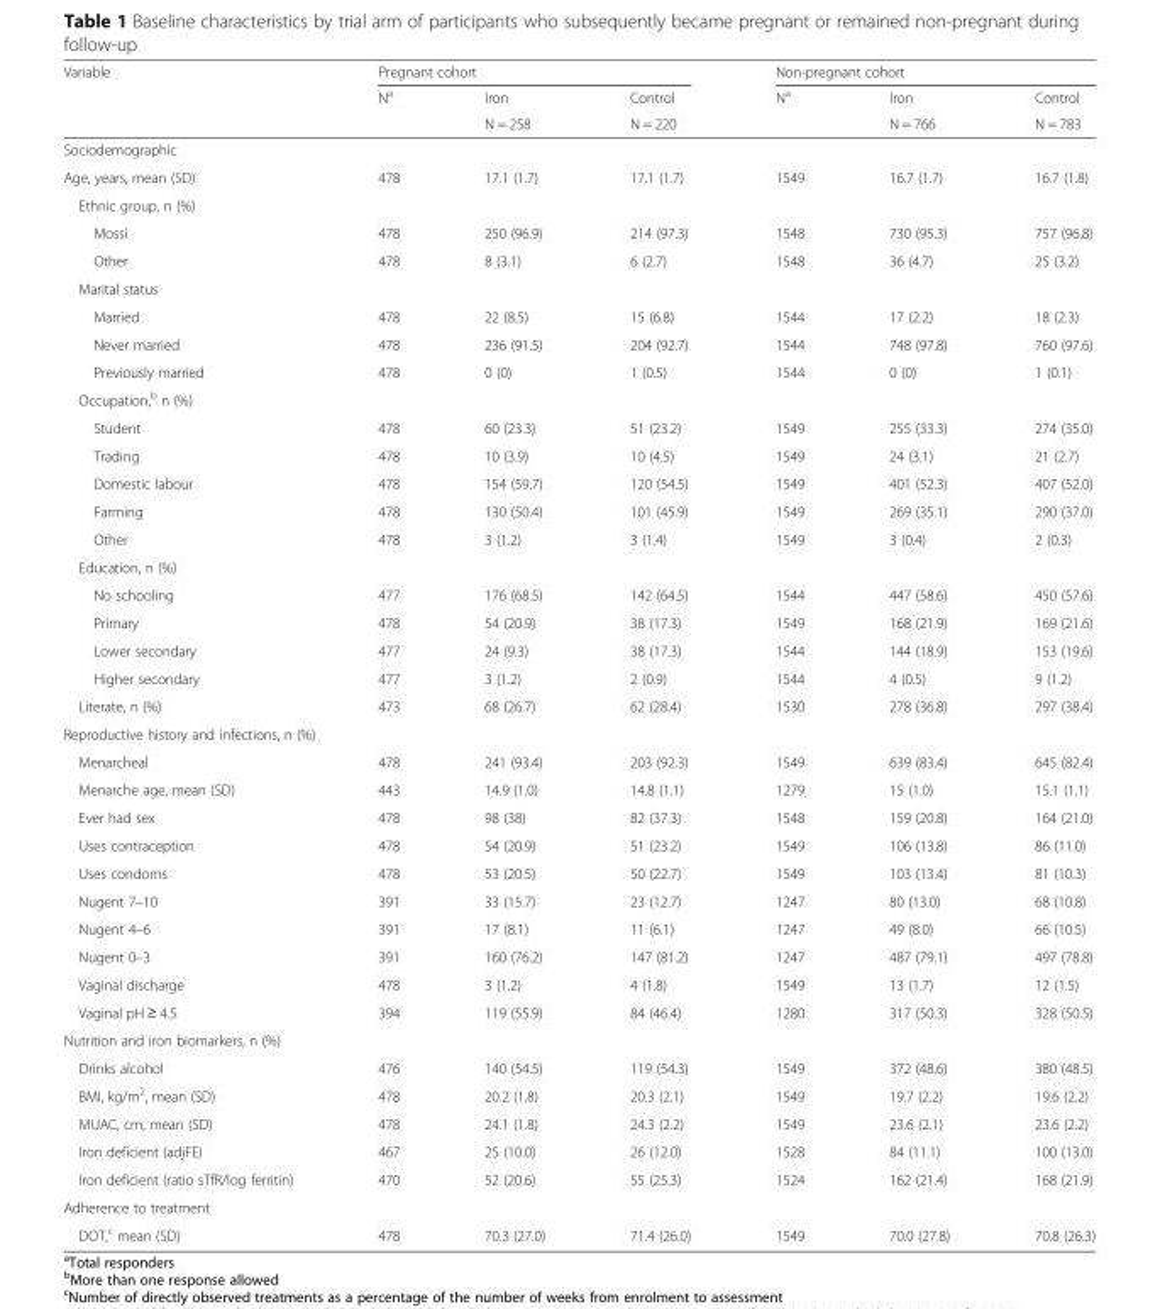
<table><thead><tr><td rowspan="3">Variable</td><td colspan="3">Pregnant cohort</td><td colspan="3">Non-pregnant cohort</td></tr><tr><td rowspan="2">N<sup>a</sup></td><td rowspan="2">Iron N = 258</td><td rowspan="2">Control N = 220</td><td rowspan="2">N<sup>a</sup></td><td rowspan="2">Iron N = 766</td><td rowspan="2">Control N = 783</td></tr><tr></tr></thead><tbody><tr><td colspan="7">Sociodemographic</td></tr><tr><td>Age, years, mean (SD)</td><td>478</td><td>17.1 (1.7)</td><td>17.1 (1.7)</td><td>1549</td><td>16.7 (1.7)</td><td>16.7 (1.8)</td></tr><tr><td colspan="7">Ethnic group, n (%)</td></tr><tr><td>Mossi</td><td>478</td><td>250 (96.9)</td><td>214 (97.3)</td><td>1548</td><td>730 (95.3)</td><td>757 (96.8)</td></tr><tr><td>Other</td><td>478</td><td>8 (3.1)</td><td>6 (2.7)</td><td>1548</td><td>36 (4.7)</td><td>25 (3.2)</td></tr><tr><td colspan="7">Marital status</td></tr><tr><td>Married</td><td>478</td><td>22 (8.5)</td><td>15 (6.8)</td><td>1544</td><td>17 (2.2)</td><td>18 (2.3)</td></tr><tr><td>Never married</td><td>478</td><td>236 (91.5)</td><td>204 (92.7)</td><td>1544</td><td>748 (97.8)</td><td>760 (97.6)</td></tr><tr><td>Previously married</td><td>478</td><td>0 (0)</td><td>1 (0.5)</td><td>1544</td><td>0 (0)</td><td>1 (0.1)</td></tr><tr><td colspan="7">Occupation,<sup>b</sup> n (%)</td></tr><tr><td>Student</td><td>478</td><td>60 (23.3)</td><td>51 (23.2)</td><td>1549</td><td>255 (33.3)</td><td>274 (35.0)</td></tr><tr><td>Trading</td><td>478</td><td>10 (3.9)</td><td>10 (4.5)</td><td>1549</td><td>24 (3.1)</td><td>21 (2.7)</td></tr><tr><td>Domestic labour</td><td>478</td><td>154 (59.7)</td><td>120 (54.5)</td><td>1549</td><td>401 (52.3)</td><td>407 (52.0)</td></tr><tr><td>Farming</td><td>478</td><td>130 (50.4)</td><td>101 (45.9)</td><td>1549</td><td>269 (35.1)</td><td>290 (37.0)</td></tr><tr><td>Other</td><td>478</td><td>3 (1.2)</td><td>3 (1.4)</td><td>1549</td><td>3 (0.4)</td><td>2 (0.3)</td></tr><tr><td colspan="7">Education, n (%)</td></tr><tr><td>No schooling</td><td>477</td><td>176 (68.5)</td><td>142 (64.5)</td><td>1544</td><td>447 (58.6)</td><td>450 (57.6)</td></tr><tr><td>Primary</td><td>478</td><td>54 (20.9)</td><td>38 (17.3)</td><td>1549</td><td>168 (21.9)</td><td>169 (21.6)</td></tr><tr><td>Lower secondary</td><td>477</td><td>24 (9.3)</td><td>38 (17.3)</td><td>1544</td><td>144 (18.9)</td><td>153 (19.6)</td></tr><tr><td>Higher secondary</td><td>477</td><td>3 (1.2)</td><td>2 (0.9)</td><td>1544</td><td>4 (0.5)</td><td>9 (1.2)</td></tr><tr><td>Literate, n (%)</td><td>473</td><td>68 (26.7)</td><td>62 (28.4)</td><td>1530</td><td>278 (36.8)</td><td>297 (38.4)</td></tr><tr><td colspan="7">Reproductive history and infections, n (%)</td></tr><tr><td>Menarcheal</td><td>478</td><td>241 (93.4)</td><td>203 (92.3)</td><td>1549</td><td>639 (83.4)</td><td>645 (82.4)</td></tr><tr><td>Menarche age, mean (SD)</td><td>443</td><td>14.9 (1.0)</td><td>14.8 (1.1)</td><td>1279</td><td>15 (1.0)</td><td>15.1 (1.1)</td></tr><tr><td>Ever had sex</td><td>478</td><td>98 (38)</td><td>82 (37.3)</td><td>1548</td><td>159 (20.8)</td><td>164 (21.0)</td></tr><tr><td>Uses contraception</td><td>478</td><td>54 (20.9)</td><td>51 (23.2)</td><td>1549</td><td>106 (13.8)</td><td>86 (11.0)</td></tr><tr><td>Uses condoms</td><td>478</td><td>53 (20.5)</td><td>50 (22.7)</td><td>1549</td><td>103 (13.4)</td><td>81 (10.3)</td></tr><tr><td>Nugent 7–10</td><td>391</td><td>33 (15.7)</td><td>23 (12.7)</td><td>1247</td><td>80 (13.0)</td><td>68 (10.8)</td></tr><tr><td>Nugent 4–6</td><td>391</td><td>17 (8.1)</td><td>11 (6.1)</td><td>1247</td><td>49 (8.0)</td><td>66 (10.5)</td></tr><tr><td>Nugent 0–3</td><td>391</td><td>160 (76.2)</td><td>147 (81.2)</td><td>1247</td><td>487 (79.1)</td><td>497 (78.8)</td></tr><tr><td>Vaginal discharge</td><td>478</td><td>3 (1.2)</td><td>4 (1.8)</td><td>1549</td><td>13 (1.7)</td><td>12 (1.5)</td></tr><tr><td>Vaginal pH ≥ 4.5</td><td>394</td><td>119 (55.9)</td><td>84 (46.4)</td><td>1280</td><td>317 (50.3)</td><td>328 (50.5)</td></tr><tr><td colspan="7">Nutrition and iron biomarkers, n (%)</td></tr><tr><td>Drinks alcohol</td><td>476</td><td>140 (54.5)</td><td>119 (54.3)</td><td>1549</td><td>372 (48.6)</td><td>380 (48.5)</td></tr><tr><td>BMI, kg/m<sup>2</sup>, mean (SD)</td><td>478</td><td>20.2 (1.8)</td><td>20.3 (2.1)</td><td>1549</td><td>19.7 (2.2)</td><td>19.6 (2.2)</td></tr><tr><td>MUAC, cm, mean (SD)</td><td>478</td><td>24.1 (1.8)</td><td>24.3 (2.2)</td><td>1549</td><td>23.6 (2.1)</td><td>23.6 (2.2)</td></tr><tr><td>Iron deficient (adjFE)</td><td>467</td><td>25 (10.0)</td><td>26 (12.0)</td><td>1528</td><td>84 (11.1)</td><td>100 (13.0)</td></tr><tr><td>Iron deficient (ratio sTfR/log ferritin)</td><td>470</td><td>52 (20.6)</td><td>55 (25.3)</td><td>1524</td><td>162 (21.4)</td><td>168 (21.9)</td></tr><tr><td colspan="7">Adherence to treatment</td></tr><tr><td>DOT,<sup>c</sup> mean (SD)</td><td>478</td><td>70.3 (27.0)</td><td>71.4 (26.0)</td><td>1549</td><td>70.0 (27.8)</td><td>70.8 (26.3)</td></tr></tbody></table>